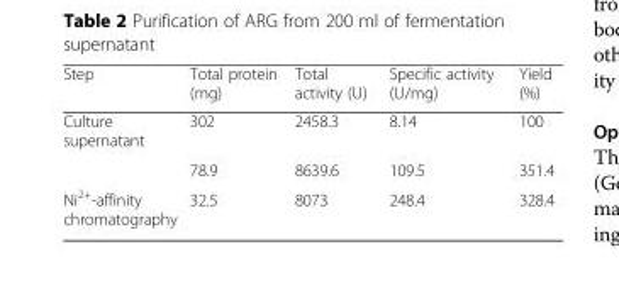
<table><thead><tr><td>Step</td><td>Total protein (mg)</td><td>Total activity (U)</td><td>Specific activity (U/mg)</td><td>Yield (%)</td></tr></thead><tbody><tr><td rowspan="2">Culture supernatant</td><td>302</td><td>2458.3</td><td>8.14</td><td>100</td></tr><tr><td>78.9</td><td>8639.6</td><td>109.5</td><td>351.4</td></tr><tr><td>Ni<sup>2+</sup>-affinity chromatography</td><td>32.5</td><td>8073</td><td>248.4</td><td>328.4</td></tr></tbody></table>